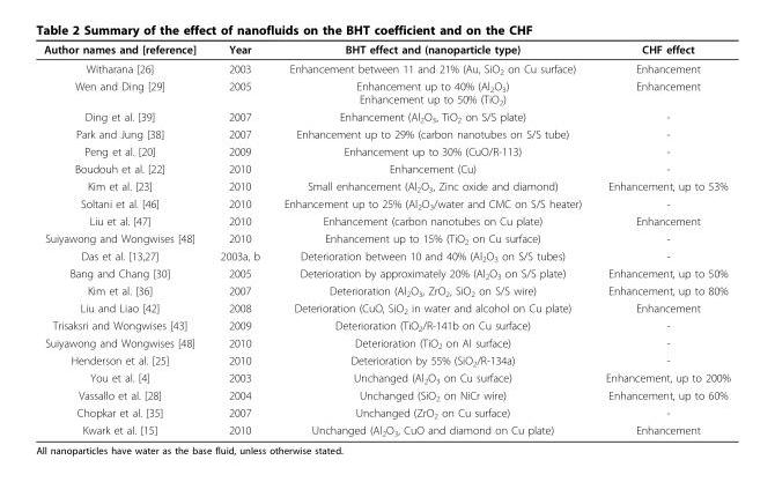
<table><thead><tr><td>Author names and [reference]</td><td>Year</td><td>BHT effect and (nanoparticle type)</td><td>CHF effect</td></tr></thead><tbody><tr><td>Witharana [26]</td><td>2003</td><td>Enhancement between 11 and 21% (Au, SiO<sub>2</sub> on Cu surface)</td><td>Enhancement</td></tr><tr><td>Wen and Ding [29]</td><td>2005</td><td>Enhancement up to 40% (Al<sub>2</sub>O<sub>3</sub>) Enhancement up to 50% (TiO<sub>2</sub>)</td><td>Enhancement</td></tr><tr><td>Ding et al. [39]</td><td>2007</td><td>Enhancement (Al<sub>2</sub>O<sub>3</sub>, TiO<sub>2</sub> on S/S plate)</td><td>-</td></tr><tr><td>Park and Jung [38]</td><td>2007</td><td>Enhancement up to 29% (carbon nanotubes on S/S tube)</td><td>-</td></tr><tr><td>Peng et al. [20]</td><td>2009</td><td>Enhancement up to 30% (CuO/R-113)</td><td>-</td></tr><tr><td>Boudouh et al. [22]</td><td>2010</td><td>Enhancement (Cu)</td><td>-</td></tr><tr><td>Kim et al. [23]</td><td>2010</td><td>Small enhancement (Al<sub>2</sub>O<sub>3</sub>, Zinc oxide and diamond)</td><td>Enhancement, up to 53%</td></tr><tr><td>Soltani et al. [46]</td><td>2010</td><td>Enhancement up to 25% (Al<sub>2</sub>O<sub>3</sub>/water and CMC on S/S heater)</td><td>-</td></tr><tr><td>Liu et al. [47]</td><td>2010</td><td>Enhancement (carbon nanotubes on Cu plate)</td><td>Enhancement</td></tr><tr><td>Suiyawong and Wongwises [48]</td><td>2010</td><td>Enhancement up to 15% (TiO<sub>2</sub> on Cu surface)</td><td>-</td></tr><tr><td>Das et al. [13,27]</td><td>2003a, b</td><td>Deterioration between 10 and 40% (Al<sub>2</sub>O<sub>3</sub> on S/S tubes)</td><td>-</td></tr><tr><td>Bang and Chang [30]</td><td>2005</td><td>Deterioration by approximately 20% (Al<sub>2</sub>O<sub>3</sub> on S/S plate)</td><td>Enhancement, up to 50%</td></tr><tr><td>Kim et al. [36]</td><td>2007</td><td>Deterioration (Al<sub>2</sub>O<sub>3</sub>, ZrO<sub>2</sub>, SiO<sub>2</sub> on S/S wire)</td><td>Enhancement, up to 80%</td></tr><tr><td>Liu and Liao [42]</td><td>2008</td><td>Deterioration (CuO, SiO<sub>2</sub> in water and alcohol on Cu plate)</td><td>Enhancement</td></tr><tr><td>Trisaksri and Wongwises [43]</td><td>2009</td><td>Deterioration (TiO<sub>2</sub>/R-141b on Cu surface)</td><td>-</td></tr><tr><td>Suiyawong and Wongwises [48]</td><td>2010</td><td>Deterioration (TiO<sub>2</sub> on Al surface)</td><td>-</td></tr><tr><td>Henderson et al. [25]</td><td>2010</td><td>Deterioration by 55% (SiO<sub>2</sub>/R-134a)</td><td>-</td></tr><tr><td>You et al. [4]</td><td>2003</td><td>Unchanged (Al<sub>2</sub>O<sub>3</sub> on Cu surface)</td><td>Enhancement, up to 200%</td></tr><tr><td>Vassallo et al. [28]</td><td>2004</td><td>Unchanged (SiO<sub>2</sub> on NiCr wire)</td><td>Enhancement, up to 60%</td></tr><tr><td>Chopkar et al. [35]</td><td>2007</td><td>Unchanged (ZrO<sub>2</sub> on Cu surface)</td><td>-</td></tr><tr><td>Kwark et al. [15]</td><td>2010</td><td>Unchanged (Al<sub>2</sub>O<sub>3</sub>, CuO and diamond on Cu plate)</td><td>Enhancement</td></tr></tbody></table>